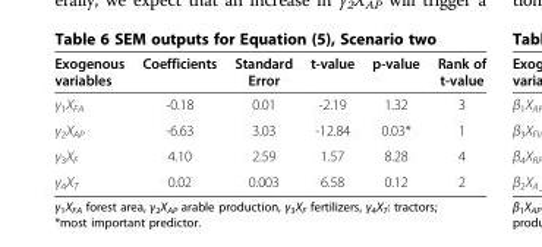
<table><thead><tr><td>Exogenous variables</td><td>Coefficients</td><td>Standard Error</td><td>t-value</td><td>p-value</td><td>Rank of t-value</td></tr></thead><tbody><tr><td>γ<sub>1</sub>X<sub>FA</sub></td><td>-0.18</td><td>0.01</td><td>-2.19</td><td>1.32</td><td>3</td></tr><tr><td>γ<sub>2</sub>X<sub>AP</sub></td><td>-6.63</td><td>3.03</td><td>-12.84</td><td>0.03*</td><td>1</td></tr><tr><td>γ<sub>3</sub>X<sub>F</sub></td><td>4.10</td><td>2.59</td><td>1.57</td><td>8.28</td><td>4</td></tr><tr><td>γ<sub>4</sub>X<sub>T</sub></td><td>0.02</td><td>0.003</td><td>6.58</td><td>0.12</td><td>2</td></tr></tbody></table>